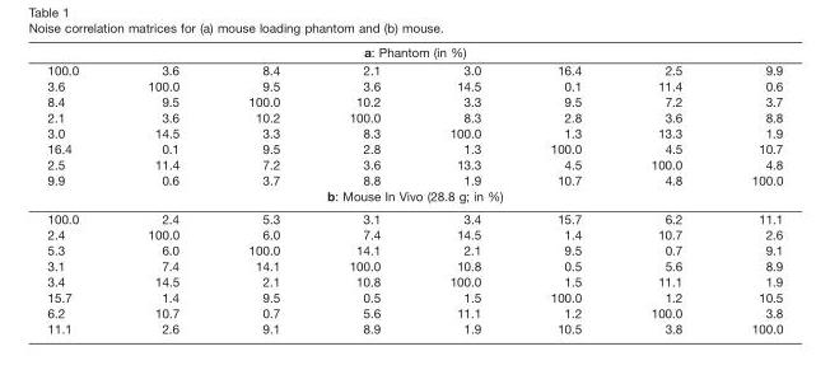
<table><thead><tr><td colspan="8">a: Phantom (in %)</td></tr><tr><td>100.0</td><td>3.6</td><td>8.4</td><td>2.1</td><td>3.0</td><td>16.4</td><td>2.5</td><td>9.9</td></tr></thead><tbody><tr><td>3.6</td><td>100.0</td><td>9.5</td><td>3.6</td><td>14.5</td><td>0.1</td><td>11.4</td><td>0.6</td></tr><tr><td>8.4</td><td>9.5</td><td>100.0</td><td>10.2</td><td>3.3</td><td>9.5</td><td>7.2</td><td>3.7</td></tr><tr><td>2.1</td><td>3.6</td><td>10.2</td><td>100.0</td><td>8.3</td><td>2.8</td><td>3.6</td><td>8.8</td></tr><tr><td>3.0</td><td>14.5</td><td>3.3</td><td>8.3</td><td>100.0</td><td>1.3</td><td>13.3</td><td>1.9</td></tr><tr><td>16.4</td><td>0.1</td><td>9.5</td><td>2.8</td><td>1.3</td><td>100.0</td><td>4.5</td><td>10.7</td></tr><tr><td>2.5</td><td>11.4</td><td>7.2</td><td>3.6</td><td>13.3</td><td>4.5</td><td>100.0</td><td>4.8</td></tr><tr><td>9.9</td><td>0.6</td><td>3.7</td><td>8.8</td><td>1.9</td><td>10.7</td><td>4.8</td><td>100.0</td></tr><tr><td colspan="8">b: Mouse In Vivo (28.8 g; in %)</td></tr><tr><td>100.0</td><td>2.4</td><td>5.3</td><td>3.1</td><td>3.4</td><td>15.7</td><td>6.2</td><td>11.1</td></tr><tr><td>2.4</td><td>100.0</td><td>6.0</td><td>7.4</td><td>14.5</td><td>1.4</td><td>10.7</td><td>2.6</td></tr><tr><td>5.3</td><td>6.0</td><td>100.0</td><td>14.1</td><td>2.1</td><td>9.5</td><td>0.7</td><td>9.1</td></tr><tr><td>3.1</td><td>7.4</td><td>14.1</td><td>100.0</td><td>10.8</td><td>0.5</td><td>5.6</td><td>8.9</td></tr><tr><td>3.4</td><td>14.5</td><td>2.1</td><td>10.8</td><td>100.0</td><td>1.5</td><td>11.1</td><td>1.9</td></tr><tr><td>15.7</td><td>1.4</td><td>9.5</td><td>0.5</td><td>1.5</td><td>100.0</td><td>1.2</td><td>10.5</td></tr><tr><td>6.2</td><td>10.7</td><td>0.7</td><td>5.6</td><td>11.1</td><td>1.2</td><td>100.0</td><td>3.8</td></tr><tr><td>11.1</td><td>2.6</td><td>9.1</td><td>8.9</td><td>1.9</td><td>10.5</td><td>3.8</td><td>100.0</td></tr></tbody></table>